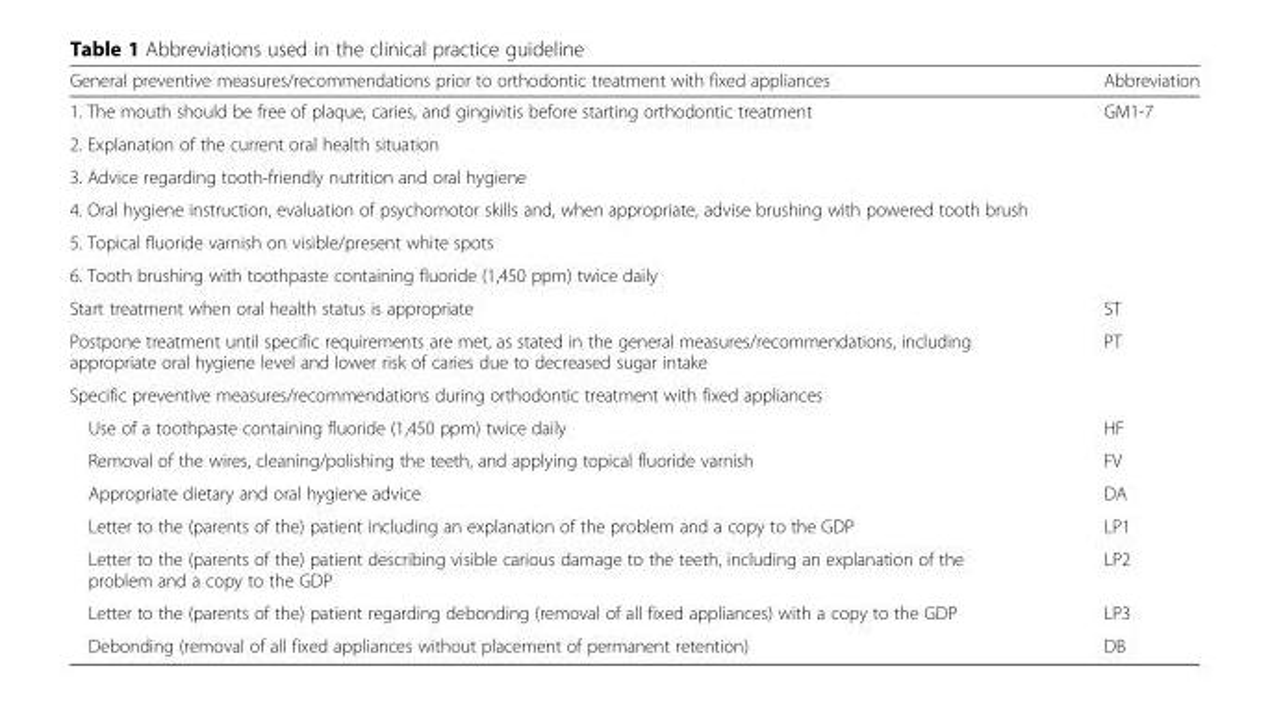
<table><thead><tr><td>General preventive measures/recommendations prior to orthodontic treatment with fixed appliances</td><td>Abbreviation</td></tr></thead><tbody><tr><td>1. The mouth should be free of plaque, caries, and gingivitis before starting orthodontic treatment</td><td rowspan="6">GM1-7</td></tr><tr><td>2. Explanation of the current oral health situation</td></tr><tr><td>3. Advice regarding tooth-friendly nutrition and oral hygiene</td></tr><tr><td>4. Oral hygiene instruction, evaluation of psychomotor skills and, when appropriate, advise brushing with powered tooth brush</td></tr><tr><td>5. Topical fluoride varnish on visible/present white spots</td></tr><tr><td>6. Tooth brushing with toothpaste containing fluoride (1,450 ppm) twice daily</td></tr><tr><td>Start treatment when oral health status is appropriate</td><td>ST</td></tr><tr><td>Postpone treatment until specific requirements are met, as stated in the general measures/recommendations, including appropriate oral hygiene level and lower risk of caries due to decreased sugar intake</td><td>PT</td></tr><tr><td colspan="2">Specific preventive measures/recommendations during orthodontic treatment with fixed appliances</td></tr><tr><td>Use of a toothpaste containing fluoride (1,450 ppm) twice daily</td><td>HF</td></tr><tr><td>Removal of the wires, cleaning/polishing the teeth, and applying topical fluoride varnish</td><td>FV</td></tr><tr><td>Appropriate dietary and oral hygiene advice</td><td>DA</td></tr><tr><td>Letter to the (parents of the) patient including an explanation of the problem and a copy to the GDP</td><td>LP1</td></tr><tr><td>Letter to the (parents of the) patient describing visible carious damage to the teeth, including an explanation of the problem and a copy to the GDP</td><td>LP2</td></tr><tr><td>Letter to the (parents of the) patient regarding debonding (removal of all fixed appliances) with a copy to the GDP</td><td>LP3</td></tr><tr><td>Debonding (removal of all fixed appliances without placement of permanent retention)</td><td>DB</td></tr></tbody></table>